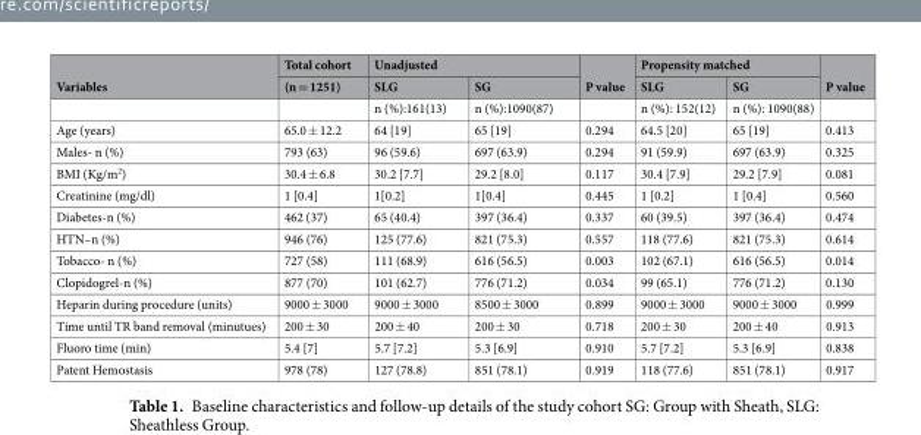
<table><thead><tr><td rowspan="2">Variables</td><td rowspan="2">Total cohort (n = 1251)</td><td colspan="2">Unadjusted</td><td rowspan="2">P value</td><td colspan="2">Propensity matched</td><td rowspan="2">P value</td></tr><tr><td>SLG</td><td>SG</td><td>SLG</td><td>SG</td></tr></thead><tbody><tr><td></td><td></td><td>n (%):161(13)</td><td>n (%):1090(87)</td><td></td><td>n (%): 152(12)</td><td>n (%): 1090(88)</td><td></td></tr><tr><td>Age (years)</td><td>65.0 ± 12.2</td><td>64 [19]</td><td>65 [19]</td><td>0.294</td><td>64.5 [20]</td><td>65 [19]</td><td>0.413</td></tr><tr><td>Males- n (%)</td><td>793 (63)</td><td>96 (59.6)</td><td>697 (63.9)</td><td>0.294</td><td>91 (59.9)</td><td>697 (63.9)</td><td>0.325</td></tr><tr><td>BMI (Kg/m<sup>2</sup>)</td><td>30.4 ± 6.8</td><td>30.2 [7.7]</td><td>29.2 [8.0]</td><td>0.117</td><td>30.4 [7.9]</td><td>29.2 [7.9]</td><td>0.081</td></tr><tr><td>Creatinine (mg/dl)</td><td>1 [0.4]</td><td>1[0.2]</td><td>1[0.4]</td><td>0.445</td><td>1 [0.2]</td><td>1 [0.4]</td><td>0.560</td></tr><tr><td>Diabetes-n (%)</td><td>462 (37)</td><td>65 (40.4)</td><td>397 (36.4)</td><td>0.337</td><td>60 (39.5)</td><td>397 (36.4)</td><td>0.474</td></tr><tr><td>HTN–n (%)</td><td>946 (76)</td><td>125 (77.6)</td><td>821 (75.3)</td><td>0.557</td><td>118 (77.6)</td><td>821 (75.3)</td><td>0.614</td></tr><tr><td>Tobacco- n (%)</td><td>727 (58)</td><td>111 (68.9)</td><td>616 (56.5)</td><td>0.003</td><td>102 (67.1)</td><td>616 (56.5)</td><td>0.014</td></tr><tr><td>Clopidogrel-n (%)</td><td>877 (70)</td><td>101 (62.7)</td><td>776 (71.2)</td><td>0.034</td><td>99 (65.1)</td><td>776 (71.2)</td><td>0.130</td></tr><tr><td>Heparin during procedure (units)</td><td>9000 ± 3000</td><td>9000 ± 3000</td><td>8500 ± 3000</td><td>0.899</td><td>9000 ± 3000</td><td>9000 ± 3000</td><td>0.999</td></tr><tr><td>Time until TR band removal (minutues)</td><td>200 ± 30</td><td>200 ± 40</td><td>200 ± 30</td><td>0.718</td><td>200 ± 30</td><td>200 ± 40</td><td>0.913</td></tr><tr><td>Fluoro time (min)</td><td>5.4 [7]</td><td>5.7 [7.2]</td><td>5.3 [6.9]</td><td>0.910</td><td>5.7 [7.2]</td><td>5.3 [6.9]</td><td>0.838</td></tr><tr><td>Patent Hemostasis</td><td>978 (78)</td><td>127 (78.8)</td><td>851 (78.1)</td><td>0.919</td><td>118 (77.6)</td><td>851 (78.1)</td><td>0.917</td></tr></tbody></table>